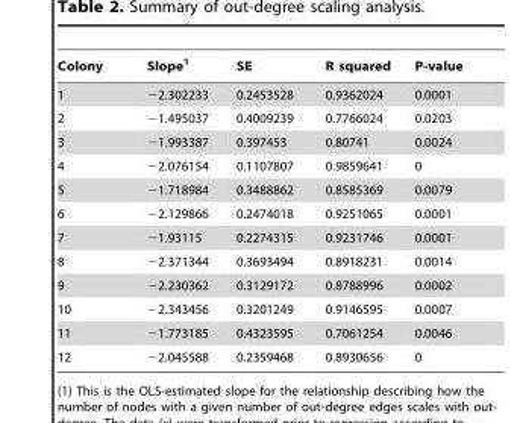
<table><thead><tr><td>Colony</td><td>Slope<sup>1</sup></td><td>SE</td><td>R squared</td><td>P-value</td></tr></thead><tbody><tr><td>1</td><td>−2.302233</td><td>0.2453528</td><td>0.9362024</td><td>0.0001</td></tr><tr><td>2</td><td>−1.495037</td><td>0.4009239</td><td>0.7766024</td><td>0.0203</td></tr><tr><td>3</td><td>−1.993387</td><td>0.397453</td><td>0.80741</td><td>0.0024</td></tr><tr><td>4</td><td>−2.076154</td><td>0.1107807</td><td>0.9859641</td><td>0</td></tr><tr><td>5</td><td>−1.718984</td><td>0.3488862</td><td>0.8585369</td><td>0.0079</td></tr><tr><td>6</td><td>−2.129866</td><td>0.2474018</td><td>0.9251065</td><td>0.0001</td></tr><tr><td>7</td><td>−1.93115</td><td>0.2274315</td><td>0.9231746</td><td>0.0001</td></tr><tr><td>8</td><td>−2.371344</td><td>0.3693494</td><td>0.8918231</td><td>0.0014</td></tr><tr><td>9</td><td>−2.230362</td><td>0.3129172</td><td>0.8788996</td><td>0.0002</td></tr><tr><td>10</td><td>−2.343456</td><td>0.3201249</td><td>0.9146595</td><td>0.0007</td></tr><tr><td>11</td><td>−1.773185</td><td>0.4323595</td><td>0.7061254</td><td>0.0046</td></tr><tr><td>12</td><td>−2.045588</td><td>0.2359468</td><td>0.8930656</td><td>0</td></tr></tbody></table>